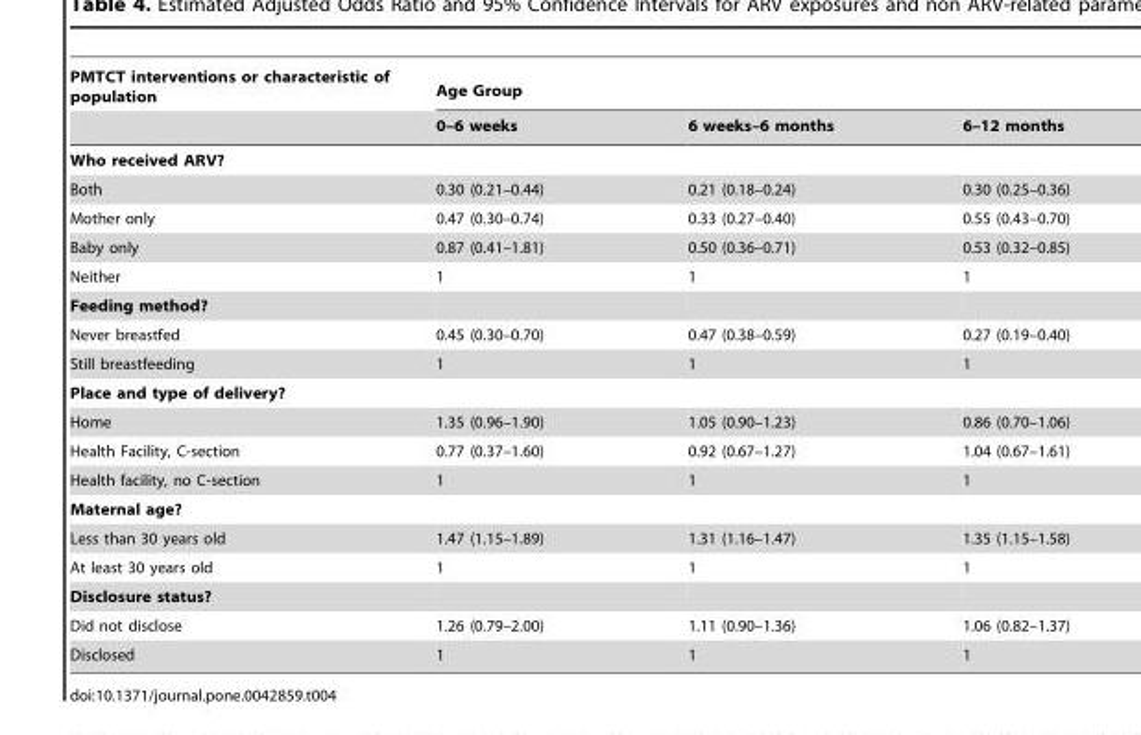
<table><thead><tr><td rowspan="2">PMTCT interventions or characteristic of population</td><td colspan="3">Age Group</td></tr><tr><td>0–6 weeks</td><td>6 weeks–6 months</td><td>6–12 months</td></tr></thead><tbody><tr><td colspan="4">Who received ARV?</td></tr><tr><td>Both</td><td>0.30 (0.21–0.44)</td><td>0.21 (0.18–0.24)</td><td>0.30 (0.25–0.36)</td></tr><tr><td>Mother only</td><td>0.47 (0.30–0.74)</td><td>0.33 (0.27–0.40)</td><td>0.55 (0.43–0.70)</td></tr><tr><td>Baby only</td><td>0.87 (0.41–1.81)</td><td>0.50 (0.36–0.71)</td><td>0.53 (0.32–0.85)</td></tr><tr><td>Neither</td><td>1</td><td>1</td><td>1</td></tr><tr><td colspan="4">Feeding method?</td></tr><tr><td>Never breastfed</td><td>0.45 (0.30–0.70)</td><td>0.47 (0.38–0.59)</td><td>0.27 (0.19–0.40)</td></tr><tr><td>Still breastfeeding</td><td>1</td><td>1</td><td>1</td></tr><tr><td colspan="4">Place and type of delivery?</td></tr><tr><td>Home</td><td>1.35 (0.96–1.90)</td><td>1.05 (0.90–1.23)</td><td>0.86 (0.70–1.06)</td></tr><tr><td>Health Facility, C-section</td><td>0.77 (0.37–1.60)</td><td>0.92 (0.67–1.27)</td><td>1.04 (0.67–1.61)</td></tr><tr><td>Health facility, no C-section</td><td>1</td><td>1</td><td>1</td></tr><tr><td colspan="4">Maternal age?</td></tr><tr><td>Less than 30 years old</td><td>1.47 (1.15–1.89)</td><td>1.31 (1.16–1.47)</td><td>1.35 (1.15–1.58)</td></tr><tr><td>At least 30 years old</td><td>1</td><td>1</td><td>1</td></tr><tr><td colspan="4">Disclosure status?</td></tr><tr><td>Did not disclose</td><td>1.26 (0.79–2.00)</td><td>1.11 (0.90–1.36)</td><td>1.06 (0.82–1.37)</td></tr><tr><td>Disclosed</td><td>1</td><td>1</td><td>1</td></tr></tbody></table>